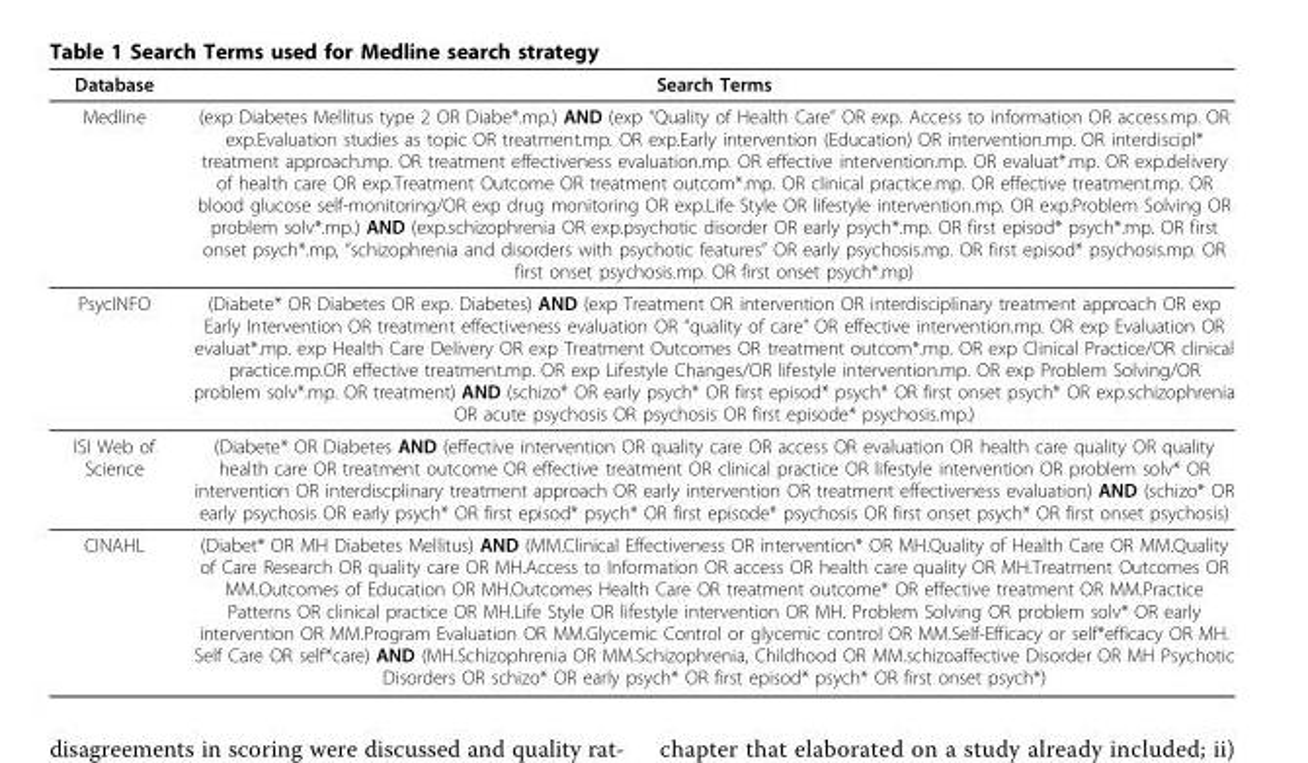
<table><thead><tr><td>Database</td><td>Search Terms</td></tr></thead><tbody><tr><td>Medline</td><td>(exp Diabetes Mellitus type 2 OR Diabe*.mp.) AND (exp “Quality of Health Care” OR exp. Access to information OR access.mp. OR exp.Evaluation studies as topic OR treatment.mp. OR exp.Early intervention (Education) OR intervention.mp. OR interdiscipl* treatment approach.mp. OR treatment effectiveness evaluation.mp. OR effective intervention.mp. OR evaluat*.mp. OR exp.delivery of health care OR exp.Treatment Outcome OR treatment outcom*.mp. OR clinical practice.mp. OR effective treatment.mp. OR blood glucose self-monitoring/OR exp drug monitoring OR exp.Life Style OR lifestyle intervention.mp. OR exp.Problem Solving OR problem solv*.mp.) AND (exp.schizophrenia OR exp.psychotic disorder OR early psych*.mp. OR first episod* psych*.mp. OR first onset psych*.mp, “schizophrenia and disorders with psychotic features” OR early psychosis.mp. OR first episod* psychosis.mp. OR first onset psychosis.mp. OR first onset psych*.mp)</td></tr><tr><td>PsycINFO</td><td>(Diabete* OR Diabetes OR exp. Diabetes) AND (exp Treatment OR intervention OR interdisciplinary treatment approach OR exp Early Intervention OR treatment effectiveness evaluation OR “quality of care” OR effective intervention.mp. OR exp Evaluation OR evaluat*.mp. exp Health Care Delivery OR exp Treatment Outcomes OR treatment outcom*.mp. OR exp Clinical Practice/OR clinical practice.mp.OR effective treatment.mp. OR exp Lifestyle Changes/OR lifestyle intervention.mp. OR exp Problem Solving/OR problem solv*.mp. OR treatment) AND (schizo* OR early psych* OR first episod* psych* OR first onset psych* OR exp.schizophrenia OR acute psychosis OR psychosis OR first episode* psychosis.mp.)</td></tr><tr><td>ISI Web of Science</td><td>(Diabete* OR Diabetes AND (effective intervention OR quality care OR access OR evaluation OR health care quality OR quality health care OR treatment outcome OR effective treatment OR clinical practice OR lifestyle intervention OR problem solv* OR intervention OR interdiscplinary treatment approach OR early intervention OR treatment effectiveness evaluation) AND (schizo* OR early psychosis OR early psych* OR first episod* psych* OR first episode* psychosis OR first onset psych* OR first onset psychosis)</td></tr><tr><td>CINAHL</td><td>(Diabet* OR MH Diabetes Mellitus) AND (MM.Clinical Effectiveness OR intervention* OR MH.Quality of Health Care OR MM.Quality of Care Research OR quality care OR MH.Access to Information OR access OR health care quality OR MH.Treatment Outcomes OR MM.Outcomes of Education OR MH.Outcomes Health Care OR treatment outcome* OR effective treatment OR MM.Practice Patterns OR clinical practice OR MH.Life Style OR lifestyle intervention OR MH. Problem Solving OR problem solv* OR early intervention OR MM.Program Evaluation OR MM.Glycemic Control or glycemic control OR MM.Self-Efficacy or self*efficacy OR MH. Self Care OR self*care) AND (MH.Schizophrenia OR MM.Schizophrenia, Childhood OR MM.schizoaffective Disorder OR MH Psychotic Disorders OR schizo* OR early psych* OR first episod* psych* OR first onset psych*)</td></tr></tbody></table>